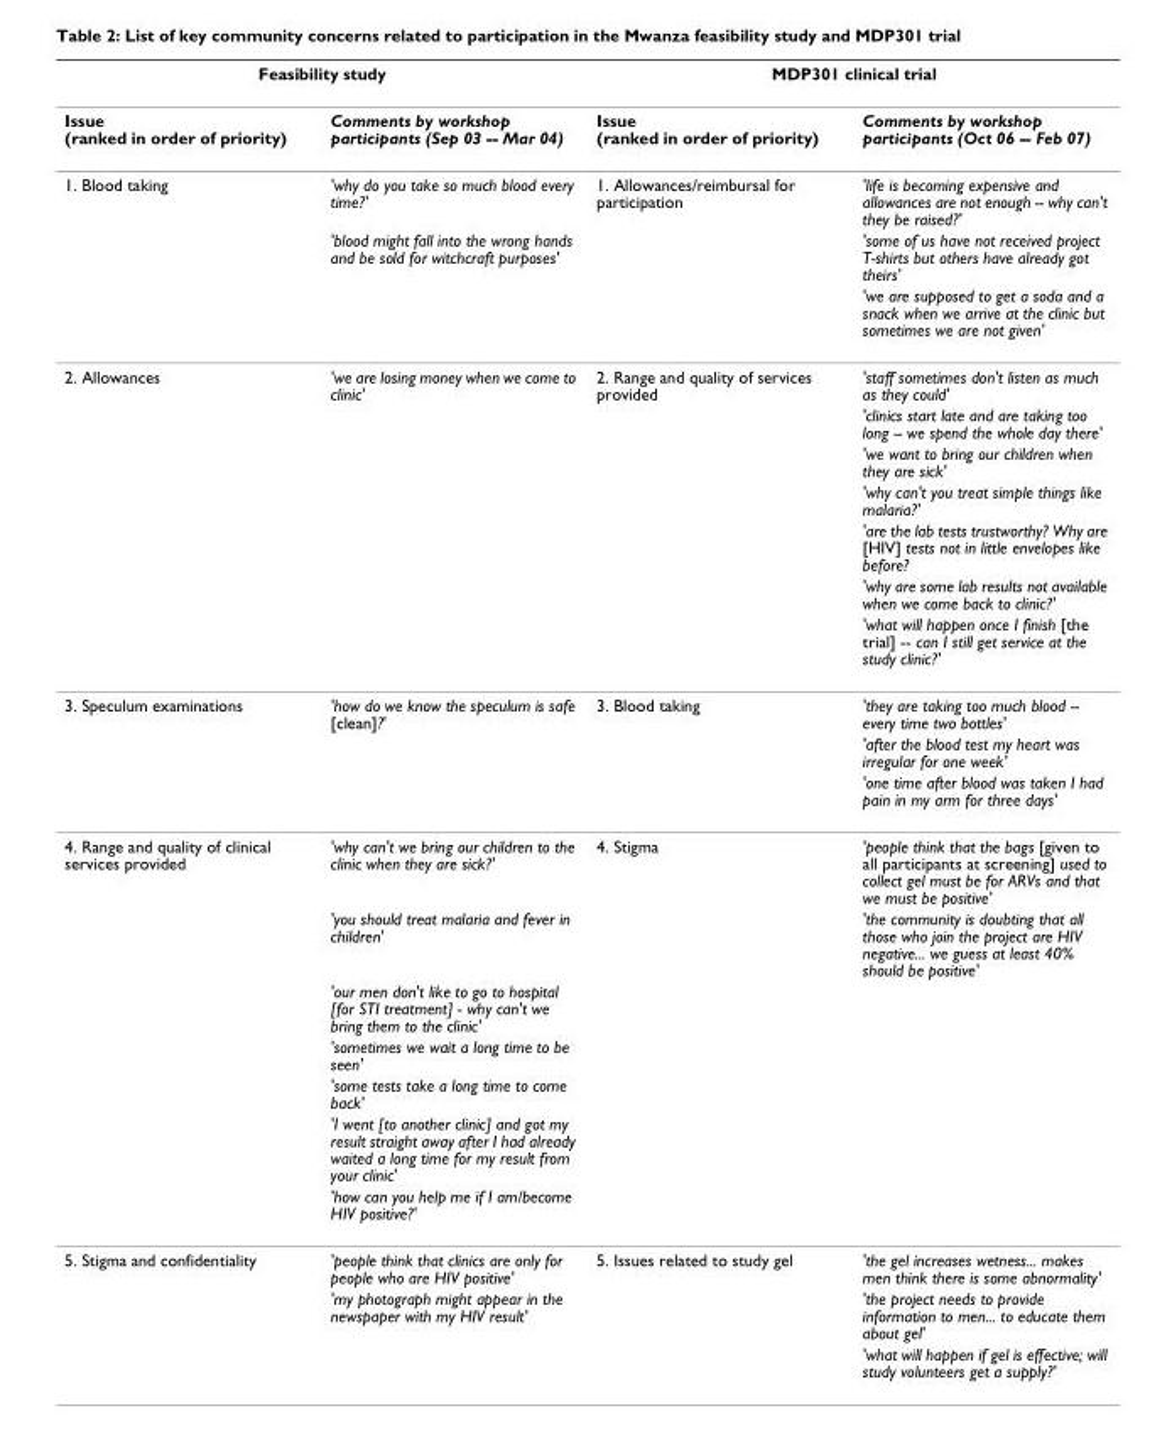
<table><thead><tr><td colspan="2">Feasibility study</td><td colspan="2">MDP301 clinical trial</td></tr><tr><td>Issue (ranked in order of priority)</td><td>Comments by workshop participants (Sep 03 -- Mar 04)</td><td>Issue (ranked in order of priority)</td><td>Comments by workshop participants (Oct 06 -- Feb 07)</td></tr></thead><tbody><tr><td rowspan="3">1. Blood taking</td><td>&#x27;why do you take so much blood every time?&#x27;</td><td>1. Allowances/reimbursal for participation</td><td>&#x27;life is becoming expensive and allowances are not enough -- why can&#x27;t they be raised?&#x27;</td></tr><tr><td>&#x27;blood might fall into the wrong hands and be sold for witchcraft purposes&#x27;</td><td></td><td>&#x27;some of us have not received project T-shirts but others have already got theirs&#x27;</td></tr><tr><td></td><td></td><td>&#x27;we are supposed to get a soda and a snack when we arrive at the clinic but sometimes we are not given&#x27;</td></tr><tr><td rowspan="7">2. Allowances</td><td>&#x27;we are losing money when we come to clinic&#x27;</td><td>2. Range and quality of services provided</td><td>&#x27;staff sometimes don&#x27;t listen as much as they could&#x27;</td></tr><tr><td></td><td></td><td>&#x27;clinics start late and are taking too long -- we spend the whole day there&#x27;</td></tr><tr><td></td><td></td><td>&#x27;we want to bring our children when they are sick&#x27;</td></tr><tr><td></td><td></td><td>&#x27;why can&#x27;t you treat simple things like malaria?&#x27;</td></tr><tr><td></td><td></td><td>&#x27;are the lab tests trustworthy? Why are [HIV] tests not in little envelopes like before?</td></tr><tr><td></td><td></td><td>&#x27;why are some lab results not available when we come back to clinic?&#x27;</td></tr><tr><td></td><td></td><td>&#x27;what will happen once I finish [the trial] -- can I still get service at the study clinic?&#x27;</td></tr><tr><td rowspan="3">3. Speculum examinations</td><td>&#x27;how do we know the speculum is safe [clean]?&#x27;</td><td>3. Blood taking</td><td>&#x27;they are taking too much blood -- every time two bottles&#x27;</td></tr><tr><td></td><td></td><td>&#x27;after the blood test my heart was irregular for one week&#x27;</td></tr><tr><td></td><td></td><td>&#x27;one time after blood was taken I had pain in my arm for three days&#x27;</td></tr><tr><td rowspan="7">4. Range and quality of clinical services provided</td><td>&#x27;why can&#x27;t we bring our children to the clinic when they are sick?&#x27;</td><td>4. Stigma</td><td>&#x27;people think that the bags [given to all participants at screening] used to collect gel must be for ARVs and that we must be positive&#x27;</td></tr><tr><td>&#x27;you should treat malaria and fever in children&#x27;</td><td></td><td>&#x27;the community is doubting that all those who join the project are HIV negative... we guess at least 40% should be positive&#x27;</td></tr><tr><td>&#x27;our men don&#x27;t like to go to hospital [for STI treatment] - why can&#x27;t we bring them to the clinic&#x27;</td><td></td><td></td></tr><tr><td>&#x27;sometimes we wait a long time to be seen&#x27;</td><td></td><td></td></tr><tr><td>&#x27;some tests take a long time to come back&#x27;</td><td></td><td></td></tr><tr><td>&#x27;I went [to another clinic] and got my result straight away after I had already waited a long time for my result from your clinic&#x27;</td><td></td><td></td></tr><tr><td>&#x27;how can you help me if I am/become HIV positive?&#x27;</td><td></td><td></td></tr><tr><td rowspan="3">5. Stigma and confidentiality</td><td>&#x27;people think that clinics are only for people who are HIV positive&#x27;</td><td>5. Issues related to study gel</td><td>&#x27;the gel increases wetness... makes men think there is some abnormality&#x27;</td></tr><tr><td>&#x27;my photograph might appear in the newspaper with my HIV result&#x27;</td><td></td><td>&#x27;the project needs to provide information to men... to educate them about gel&#x27;</td></tr><tr><td></td><td></td><td>&#x27;what will happen if gel is effective; will study volunteers get a supply?&#x27;</td></tr></tbody></table>